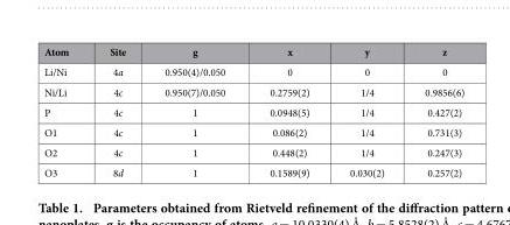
<table><thead><tr><td>Atom</td><td>Site</td><td>g</td><td>x</td><td>y</td><td>z</td></tr></thead><tbody><tr><td>Li/Ni</td><td>4a</td><td>0.950(4)/0.050</td><td>0</td><td>0</td><td>0</td></tr><tr><td>Ni/Li</td><td>4c</td><td>0.950(7)/0.050</td><td>0.2759(2)</td><td>1/4</td><td>0.9856(6)</td></tr><tr><td>P</td><td>4c</td><td>1</td><td>0.0948(5)</td><td>1/4</td><td>0.427(2)</td></tr><tr><td>O1</td><td>4c</td><td>1</td><td>0.086(2)</td><td>1/4</td><td>0.731(3)</td></tr><tr><td>O2</td><td>4c</td><td>1</td><td>0.448(2)</td><td>1/4</td><td>0.247(3)</td></tr><tr><td>O3</td><td>8d</td><td>1</td><td>0.1589(9)</td><td>0.030(2)</td><td>0.257(2)</td></tr></tbody></table>